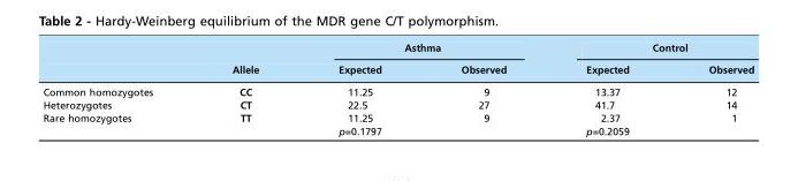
<table><thead><tr><td rowspan="2"></td><td rowspan="2">Allele</td><td colspan="2">Asthma</td><td colspan="2">Control</td></tr><tr><td>Expected</td><td>Observed</td><td>Expected</td><td>Observed</td></tr></thead><tbody><tr><td>Common homozygotes</td><td>CC</td><td>11.25</td><td>9</td><td>13.37</td><td>12</td></tr><tr><td>Heterozygotes</td><td>CT</td><td>22.5</td><td>27</td><td>41.7</td><td>14</td></tr><tr><td rowspan="2">Rare homozygotes</td><td>TT</td><td>11.25</td><td>9</td><td>2.37</td><td>1</td></tr><tr><td></td><td>p=0.1797</td><td></td><td>p=0.2059</td><td></td></tr></tbody></table>